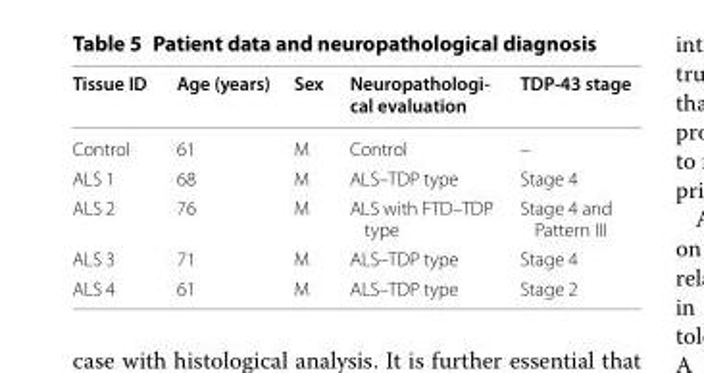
<table><thead><tr><td>Tissue ID</td><td>Age (years)</td><td>Sex</td><td>Neuropathologi- cal evaluation</td><td>TDP-43 stage</td></tr></thead><tbody><tr><td>Control</td><td>61</td><td>M</td><td>Control</td><td>–</td></tr><tr><td>ALS 1</td><td>68</td><td>M</td><td>ALS–TDP type</td><td>Stage 4</td></tr><tr><td>ALS 2</td><td>76</td><td>M</td><td>ALS with FTD–TDP type</td><td>Stage 4 and Pattern III</td></tr><tr><td>ALS 3</td><td>71</td><td>M</td><td>ALS–TDP type</td><td>Stage 4</td></tr><tr><td>ALS 4</td><td>61</td><td>M</td><td>ALS–TDP type</td><td>Stage 2</td></tr></tbody></table>